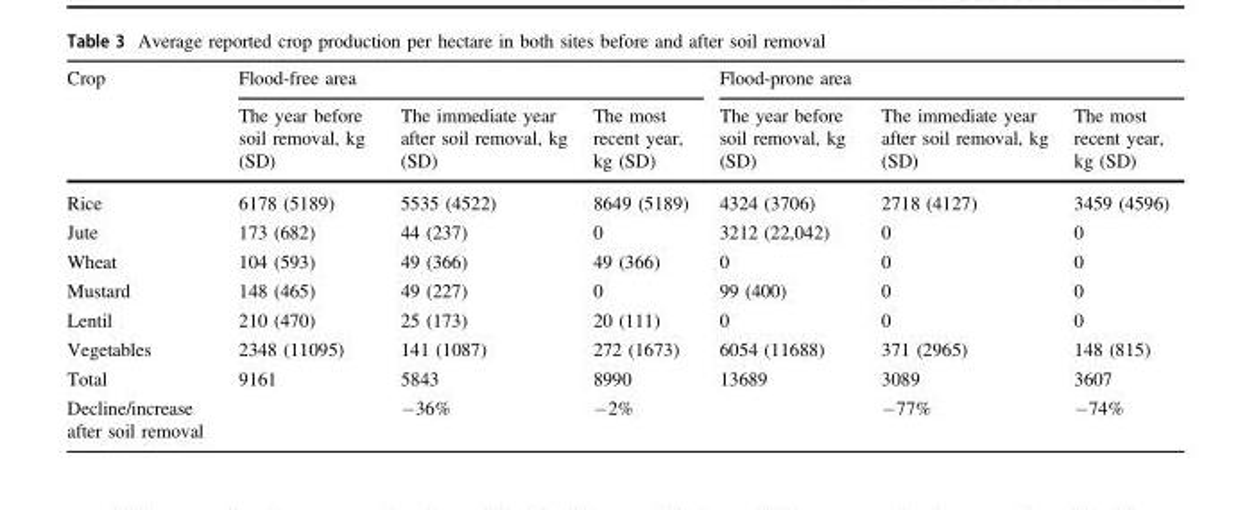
<table><thead><tr><td rowspan="2">Crop</td><td colspan="3">Flood-free area</td><td colspan="3">Flood-prone area</td></tr><tr><td>The year before soil removal, kg (SD)</td><td>The immediate year after soil removal, kg (SD)</td><td>The most recent year, kg (SD)</td><td>The year before soil removal, kg (SD)</td><td>The immediate year after soil removal, kg (SD)</td><td>The most recent year, kg (SD)</td></tr></thead><tbody><tr><td>Rice</td><td>6178 (5189)</td><td>5535 (4522)</td><td>8649 (5189)</td><td>4324 (3706)</td><td>2718 (4127)</td><td>3459 (4596)</td></tr><tr><td>Jute</td><td>173 (682)</td><td>44 (237)</td><td>0</td><td>3212 (22,042)</td><td>0</td><td>0</td></tr><tr><td>Wheat</td><td>104 (593)</td><td>49 (366)</td><td>49 (366)</td><td>0</td><td>0</td><td>0</td></tr><tr><td>Mustard</td><td>148 (465)</td><td>49 (227)</td><td>0</td><td>99 (400)</td><td>0</td><td>0</td></tr><tr><td>Lentil</td><td>210 (470)</td><td>25 (173)</td><td>20 (111)</td><td>0</td><td>0</td><td>0</td></tr><tr><td>Vegetables</td><td>2348 (11095)</td><td>141 (1087)</td><td>272 (1673)</td><td>6054 (11688)</td><td>371 (2965)</td><td>148 (815)</td></tr><tr><td>Total</td><td>9161</td><td>5843</td><td>8990</td><td>13689</td><td>3089</td><td>3607</td></tr><tr><td>Decline/increase after soil removal</td><td></td><td>−36%</td><td>−2%</td><td></td><td>−77%</td><td>−74%</td></tr></tbody></table>